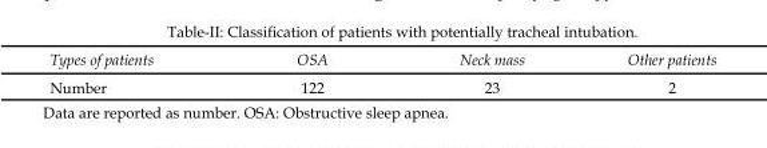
<table><thead><tr><td>Types of patients</td><td>OSA</td><td>Neck mass</td><td>Other patients</td></tr></thead><tbody><tr><td>Number</td><td>122</td><td>23</td><td>2</td></tr></tbody></table>